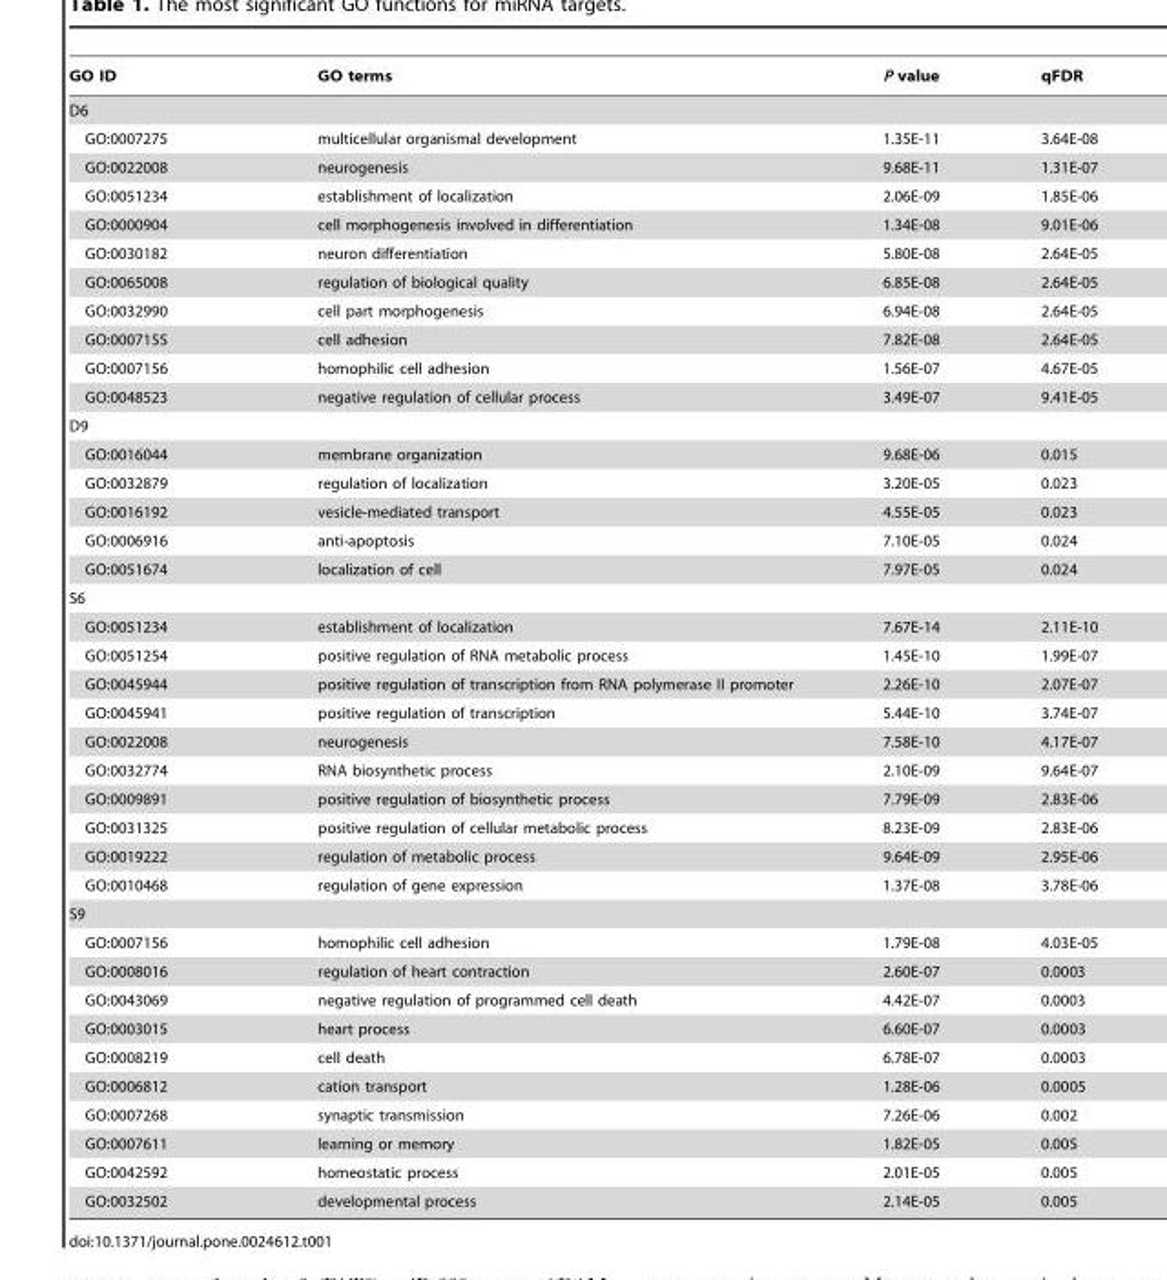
<table><thead><tr><td>GO ID</td><td>GO terms</td><td>P value</td><td>qFDR</td></tr></thead><tbody><tr><td colspan="4">D6</td></tr><tr><td>GO:0007275</td><td>multicellular organismal development</td><td>1.35E-11</td><td>3.64E-08</td></tr><tr><td>GO:0022008</td><td>neurogenesis</td><td>9.68E-11</td><td>1.31E-07</td></tr><tr><td>GO:0051234</td><td>establishment of localization</td><td>2.06E-09</td><td>1.85E-06</td></tr><tr><td>GO:0000904</td><td>cell morphogenesis involved in differentiation</td><td>1.34E-08</td><td>9.01E-06</td></tr><tr><td>GO:0030182</td><td>neuron differentiation</td><td>5.80E-08</td><td>2.64E-05</td></tr><tr><td>GO:0065008</td><td>regulation of biological quality</td><td>6.85E-08</td><td>2.64E-05</td></tr><tr><td>GO:0032990</td><td>cell part morphogenesis</td><td>6.94E-08</td><td>2.64E-05</td></tr><tr><td>GO:0007155</td><td>cell adhesion</td><td>7.82E-08</td><td>2.64E-05</td></tr><tr><td>GO:0007156</td><td>homophilic cell adhesion</td><td>1.56E-07</td><td>4.67E-05</td></tr><tr><td>GO:0048523</td><td>negative regulation of cellular process</td><td>3.49E-07</td><td>9.41E-05</td></tr><tr><td colspan="4">D9</td></tr><tr><td>GO:0016044</td><td>membrane organization</td><td>9.68E-06</td><td>0.015</td></tr><tr><td>GO:0032879</td><td>regulation of localization</td><td>3.20E-05</td><td>0.023</td></tr><tr><td>GO:0016192</td><td>vesicle-mediated transport</td><td>4.55E-05</td><td>0.023</td></tr><tr><td>GO:0006916</td><td>anti-apoptosis</td><td>7.10E-05</td><td>0.024</td></tr><tr><td>GO:0051674</td><td>localization of cell</td><td>7.97E-05</td><td>0.024</td></tr><tr><td colspan="4">S6</td></tr><tr><td>GO:0051234</td><td>establishment of localization</td><td>7.67E-14</td><td>2.11E-10</td></tr><tr><td>GO:0051254</td><td>positive regulation of RNA metabolic process</td><td>1.45E-10</td><td>1.99E-07</td></tr><tr><td>GO:0045944</td><td>positive regulation of transcription from RNA polymerase II promoter</td><td>2.26E-10</td><td>2.07E-07</td></tr><tr><td>GO:0045941</td><td>positive regulation of transcription</td><td>5.44E-10</td><td>3.74E-07</td></tr><tr><td>GO:0022008</td><td>neurogenesis</td><td>7.58E-10</td><td>4.17E-07</td></tr><tr><td>GO:0032774</td><td>RNA biosynthetic process</td><td>2.10E-09</td><td>9.64E-07</td></tr><tr><td>GO:0009891</td><td>positive regulation of biosynthetic process</td><td>7.79E-09</td><td>2.83E-06</td></tr><tr><td>GO:0031325</td><td>positive regulation of cellular metabolic process</td><td>8.23E-09</td><td>2.83E-06</td></tr><tr><td>GO:0019222</td><td>regulation of metabolic process</td><td>9.64E-09</td><td>2.95E-06</td></tr><tr><td>GO:0010468</td><td>regulation of gene expression</td><td>1.37E-08</td><td>3.78E-06</td></tr><tr><td colspan="4">S9</td></tr><tr><td>GO:0007156</td><td>homophilic cell adhesion</td><td>1.79E-08</td><td>4.03E-05</td></tr><tr><td>GO:0008016</td><td>regulation of heart contraction</td><td>2.60E-07</td><td>0.0003</td></tr><tr><td>GO:0043069</td><td>negative regulation of programmed cell death</td><td>4.42E-07</td><td>0.0003</td></tr><tr><td>GO:0003015</td><td>heart process</td><td>6.60E-07</td><td>0.0003</td></tr><tr><td>GO:0008219</td><td>cell death</td><td>6.78E-07</td><td>0.0003</td></tr><tr><td>GO:0006812</td><td>cation transport</td><td>1.28E-06</td><td>0.0005</td></tr><tr><td>GO:0007268</td><td>synaptic transmission</td><td>7.26E-06</td><td>0.002</td></tr><tr><td>GO:0007611</td><td>learning or memory</td><td>1.82E-05</td><td>0.005</td></tr><tr><td>GO:0042592</td><td>homeostatic process</td><td>2.01E-05</td><td>0.005</td></tr><tr><td>GO:0032502</td><td>developmental process</td><td>2.14E-05</td><td>0.005</td></tr></tbody></table>